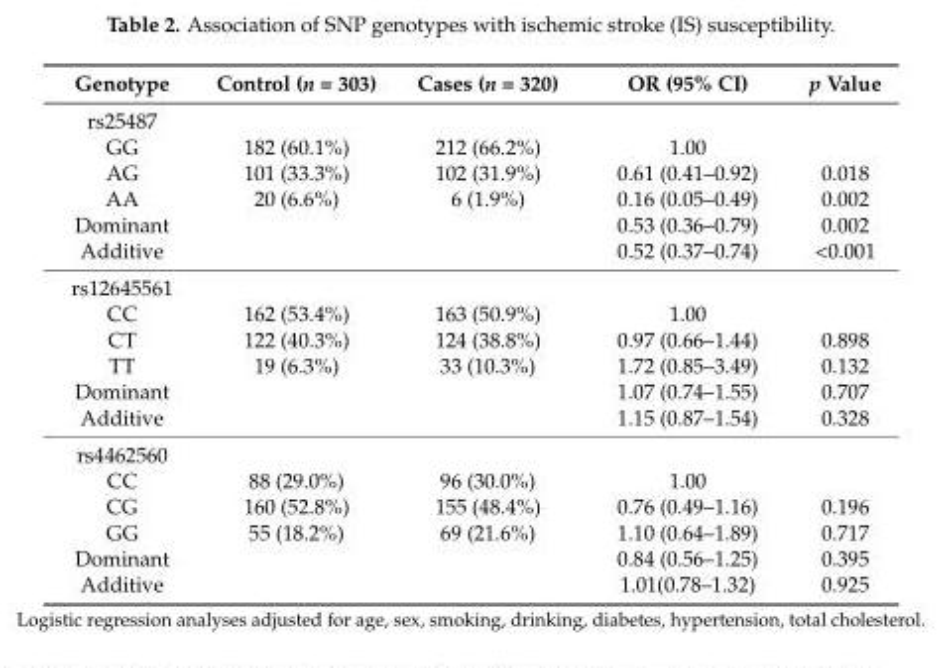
<table><thead><tr><td>Genotype</td><td>Control (n = 303)</td><td>Cases (n = 320)</td><td>OR (95% CI)</td><td>p Value</td></tr></thead><tbody><tr><td colspan="5">rs25487</td></tr><tr><td>GG</td><td>182 (60.1%)</td><td>212 (66.2%)</td><td>1.00</td><td></td></tr><tr><td>AG</td><td>101 (33.3%)</td><td>102 (31.9%)</td><td>0.61 (0.41–0.92)</td><td>0.018</td></tr><tr><td>AA</td><td>20 (6.6%)</td><td>6 (1.9%)</td><td>0.16 (0.05–0.49)</td><td>0.002</td></tr><tr><td>Dominant</td><td></td><td></td><td>0.53 (0.36–0.79)</td><td>0.002</td></tr><tr><td>Additive</td><td></td><td></td><td>0.52 (0.37–0.74)</td><td>&lt;0.001</td></tr><tr><td colspan="5">rs12645561</td></tr><tr><td>CC</td><td>162 (53.4%)</td><td>163 (50.9%)</td><td>1.00</td><td></td></tr><tr><td>CT</td><td>122 (40.3%)</td><td>124 (38.8%)</td><td>0.97 (0.66–1.44)</td><td>0.898</td></tr><tr><td>TT</td><td>19 (6.3%)</td><td>33 (10.3%)</td><td>1.72 (0.85–3.49)</td><td>0.132</td></tr><tr><td>Dominant</td><td></td><td></td><td>1.07 (0.74–1.55)</td><td>0.707</td></tr><tr><td>Additive</td><td></td><td></td><td>1.15 (0.87–1.54)</td><td>0.328</td></tr><tr><td colspan="5">rs4462560</td></tr><tr><td>CC</td><td>88 (29.0%)</td><td>96 (30.0%)</td><td>1.00</td><td></td></tr><tr><td>CG</td><td>160 (52.8%)</td><td>155 (48.4%)</td><td>0.76 (0.49–1.16)</td><td>0.196</td></tr><tr><td>GG</td><td>55 (18.2%)</td><td>69 (21.6%)</td><td>1.10 (0.64–1.89)</td><td>0.717</td></tr><tr><td>Dominant</td><td></td><td></td><td>0.84 (0.56–1.25)</td><td>0.395</td></tr><tr><td>Additive</td><td></td><td></td><td>1.01(0.78–1.32)</td><td>0.925</td></tr></tbody></table>